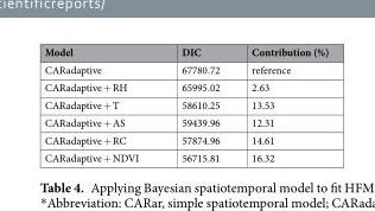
<table><thead><tr><td>Model</td><td>DIC</td><td>Contribution (%)</td></tr></thead><tbody><tr><td>CARadaptive</td><td>67780.72</td><td>reference</td></tr><tr><td>CARadaptive + RH</td><td>65995.02</td><td>2.63</td></tr><tr><td>CARadaptive + T</td><td>58610.25</td><td>13.53</td></tr><tr><td>CARadaptive + AS</td><td>59439.96</td><td>12.31</td></tr><tr><td>CARadaptive + RC</td><td>57874.96</td><td>14.61</td></tr><tr><td>CARadaptive + NDVI</td><td>56715.81</td><td>16.32</td></tr></tbody></table>